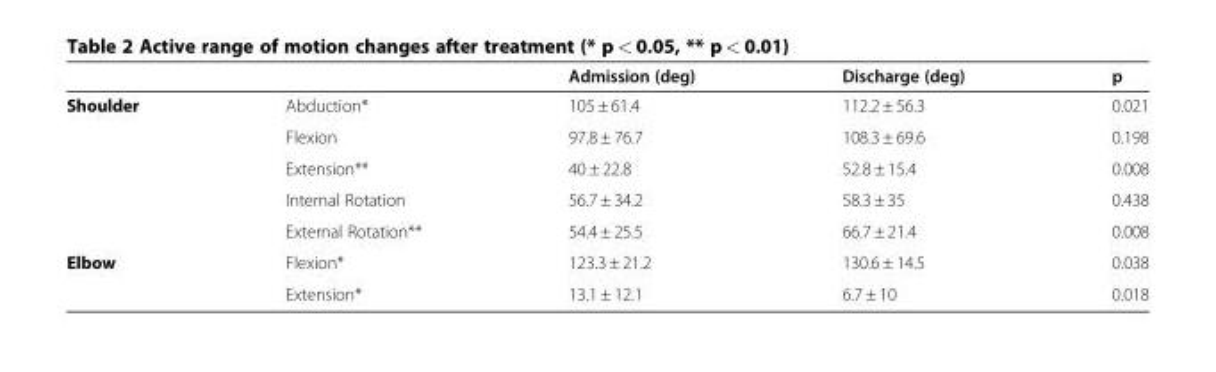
<table><thead><tr><td></td><td></td><td>Admission (deg)</td><td>Discharge (deg)</td><td>p</td></tr></thead><tbody><tr><td rowspan="5">Shoulder</td><td>Abduction*</td><td>105 ± 61.4</td><td>112.2 ± 56.3</td><td>0.021</td></tr><tr><td>Flexion</td><td>97.8 ± 76.7</td><td>108.3 ± 69.6</td><td>0.198</td></tr><tr><td>Extension**</td><td>40 ± 22.8</td><td>52.8 ± 15.4</td><td>0.008</td></tr><tr><td>Internal Rotation</td><td>56.7 ± 34.2</td><td>58.3 ± 35</td><td>0.438</td></tr><tr><td>External Rotation**</td><td>54.4 ± 25.5</td><td>66.7 ± 21.4</td><td>0.008</td></tr><tr><td rowspan="2">Elbow</td><td>Flexion*</td><td>123.3 ± 21.2</td><td>130.6 ± 14.5</td><td>0.038</td></tr><tr><td>Extension*</td><td>13.1 ± 12.1</td><td>6.7 ± 10</td><td>0.018</td></tr></tbody></table>